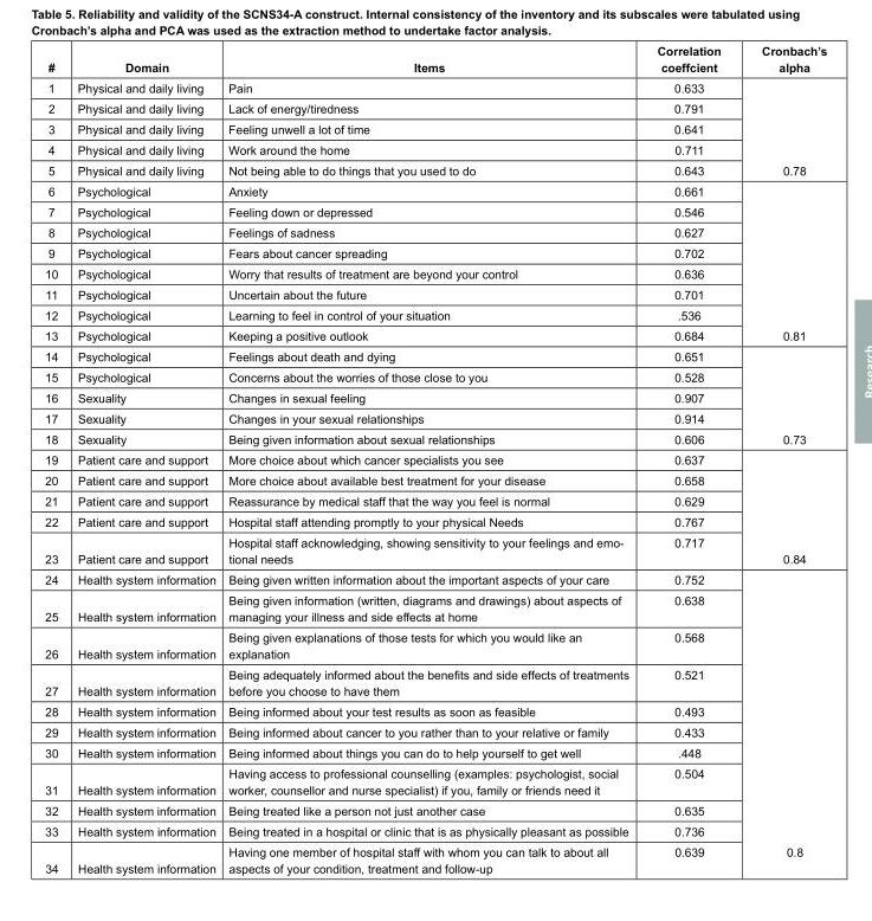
<table><thead><tr><td>#</td><td>Domain</td><td>Items</td><td>Correlation coeffcient</td><td>Cronbach’s alpha</td></tr></thead><tbody><tr><td>1</td><td>Physical and daily living</td><td>Pain</td><td>0.633</td><td rowspan="5">0.78</td></tr><tr><td>2</td><td>Physical and daily living</td><td>Lack of energy/tiredness</td><td>0.791</td></tr><tr><td>3</td><td>Physical and daily living</td><td>Feeling unwell a lot of time</td><td>0.641</td></tr><tr><td>4</td><td>Physical and daily living</td><td>Work around the home</td><td>0.711</td></tr><tr><td>5</td><td>Physical and daily living</td><td>Not being able to do things that you used to do</td><td>0.643</td></tr><tr><td>6</td><td>Psychological</td><td>Anxiety</td><td>0.661</td><td rowspan="8">0.81</td></tr><tr><td>7</td><td>Psychological</td><td>Feeling down or depressed</td><td>0.546</td></tr><tr><td>8</td><td>Psychological</td><td>Feelings of sadness</td><td>0.627</td></tr><tr><td>9</td><td>Psychological</td><td>Fears about cancer spreading</td><td>0.702</td></tr><tr><td>10</td><td>Psychological</td><td>Worry that results of treatment are beyond your control</td><td>0.636</td></tr><tr><td>11</td><td>Psychological</td><td>Uncertain about the future</td><td>0.701</td></tr><tr><td>12</td><td>Psychological</td><td>Learning to feel in control of your situation</td><td>.536</td></tr><tr><td>13</td><td>Psychological</td><td>Keeping a positive outlook</td><td>0.684</td></tr><tr><td>14</td><td>Psychological</td><td>Feelings about death and dying</td><td>0.651</td><td rowspan="5">0.73</td></tr><tr><td>15</td><td>Psychological</td><td>Concerns about the worries of those close to you</td><td>0.528</td></tr><tr><td>16</td><td>Sexuality</td><td>Changes in sexual feeling</td><td>0.907</td></tr><tr><td>17</td><td>Sexuality</td><td>Changes in your sexual relationships</td><td>0.914</td></tr><tr><td>18</td><td>Sexuality</td><td>Being given information about sexual relationships</td><td>0.606</td></tr><tr><td>19</td><td>Patient care and support</td><td>More choice about which cancer specialists you see</td><td>0.637</td><td rowspan="5">0.84</td></tr><tr><td>20</td><td>Patient care and support</td><td>More choice about available best treatment for your disease</td><td>0.658</td></tr><tr><td>21</td><td>Patient care and support</td><td>Reassurance by medical staff that the way you feel is normal</td><td>0.629</td></tr><tr><td>22</td><td>Patient care and support</td><td>Hospital staff attending promptly to your physical Needs</td><td>0.767</td></tr><tr><td>23</td><td>Patient care and support</td><td>Hospital staff acknowledging, showing sensitivity to your feelings and emo- tional needs</td><td>0.717</td></tr><tr><td>24</td><td>Health system information</td><td>Being given written information about the important aspects of your care</td><td>0.752</td><td rowspan="7"></td></tr><tr><td>25</td><td>Health system information</td><td>Being given information (written, diagrams and drawings) about aspects of managing your illness and side effects at home</td><td>0.638</td></tr><tr><td>26</td><td>Health system information</td><td>Being given explanations of those tests for which you would like an explanation</td><td>0.568</td></tr><tr><td>27</td><td>Health system information</td><td>Being adequately informed about the benefits and side effects of treatments before you choose to have them</td><td>0.521</td></tr><tr><td>28</td><td>Health system information</td><td>Being informed about your test results as soon as feasible</td><td>0.493</td></tr><tr><td>29</td><td>Health system information</td><td>Being informed about cancer to you rather than to your relative or family</td><td>0.433</td></tr><tr><td>30</td><td>Health system information</td><td>Being informed about things you can do to help yourself to get well</td><td>.448</td></tr><tr><td>31</td><td>Health system information</td><td>Having access to professional counselling (examples: psychologist, social worker, counsellor and nurse specialist) if you, family or friends need it</td><td>0.504</td><td rowspan="4">0.8</td></tr><tr><td>32</td><td>Health system information</td><td>Being treated like a person not just another case</td><td>0.635</td></tr><tr><td>33</td><td>Health system information</td><td>Being treated in a hospital or clinic that is as physically pleasant as possible</td><td>0.736</td></tr><tr><td>34</td><td>Health system information</td><td>Having one member of hospital staff with whom you can talk to about all aspects of your condition, treatment and follow-up</td><td>0.639</td></tr></tbody></table>